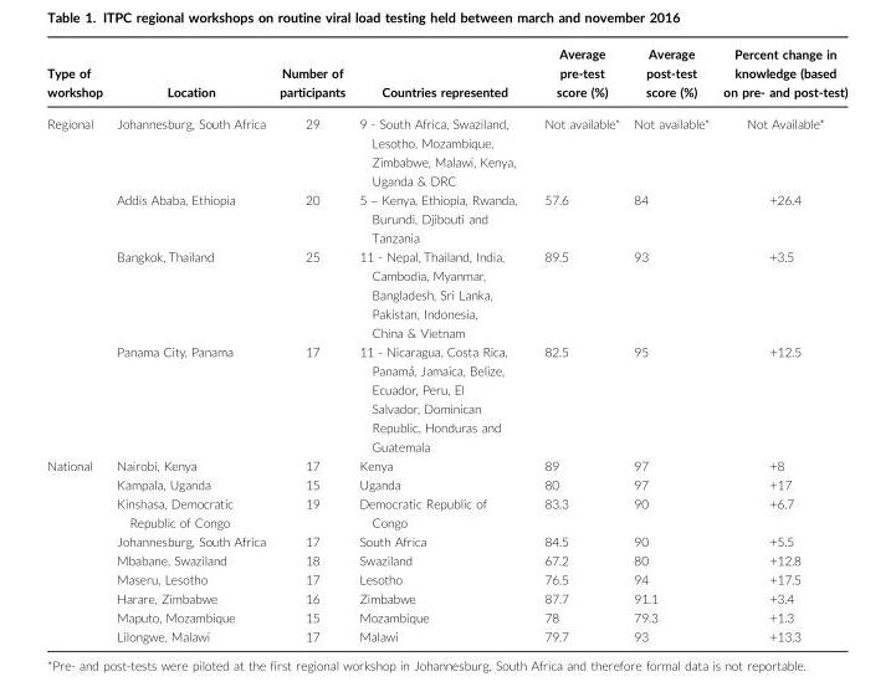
<table><thead><tr><td>Type of workshop</td><td>Location</td><td>Number of participants</td><td>Countries represented</td><td>Average pre-test score (%)</td><td>Average post-test score (%)</td><td>Percent change in knowledge (based on pre- and post-test)</td></tr></thead><tbody><tr><td rowspan="4">Regional</td><td>Johannesburg, South Africa</td><td>29</td><td>9 - South Africa, Swaziland, Lesotho, Mozambique, Zimbabwe, Malawi, Kenya, Uganda &amp; DRC</td><td>Not available*</td><td>Not available*</td><td>Not Available*</td></tr><tr><td>Addis Ababa, Ethiopia</td><td>20</td><td>5 – Kenya, Ethiopia, Rwanda, Burundi, Djibouti and Tanzania</td><td>57.6</td><td>84</td><td>+26.4</td></tr><tr><td>Bangkok, Thailand</td><td>25</td><td>11 - Nepal, Thailand, India, Cambodia, Myanmar, Bangladesh, Sri Lanka, Pakistan, Indonesia, China &amp; Vietnam</td><td>89.5</td><td>93</td><td>+3.5</td></tr><tr><td>Panama City, Panama</td><td>17</td><td>11 - Nicaragua, Costa Rica, Panam�a, Jamaica, Belize, Ecuador, Peru, El Salvador, Dominican Republic, Honduras and Guatemala</td><td>82.5</td><td>95</td><td>+12.5</td></tr><tr><td rowspan="9">National</td><td>Nairobi, Kenya</td><td>17</td><td>Kenya</td><td>89</td><td>97</td><td>+8</td></tr><tr><td>Kampala, Uganda</td><td>15</td><td>Uganda</td><td>80</td><td>97</td><td>+17</td></tr><tr><td>Kinshasa, Democratic Republic of Congo</td><td>19</td><td>Democratic Republic of Congo</td><td>83.3</td><td>90</td><td>+6.7</td></tr><tr><td>Johannesburg, South Africa</td><td>17</td><td>South Africa</td><td>84.5</td><td>90</td><td>+5.5</td></tr><tr><td>Mbabane, Swaziland</td><td>18</td><td>Swaziland</td><td>67.2</td><td>80</td><td>+12.8</td></tr><tr><td>Maseru, Lesotho</td><td>17</td><td>Lesotho</td><td>76.5</td><td>94</td><td>+17.5</td></tr><tr><td>Harare, Zimbabwe</td><td>16</td><td>Zimbabwe</td><td>87.7</td><td>91.1</td><td>+3.4</td></tr><tr><td>Maputo, Mozambique</td><td>15</td><td>Mozambique</td><td>78</td><td>79.3</td><td>+1.3</td></tr><tr><td>Lilongwe, Malawi</td><td>17</td><td>Malawi</td><td>79.7</td><td>93</td><td>+13.3</td></tr></tbody></table>